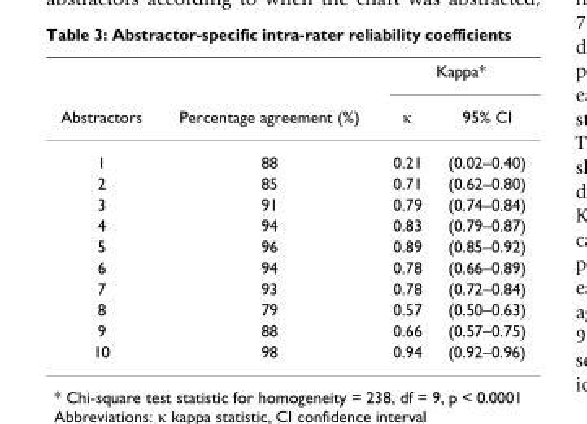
<table><thead><tr><td rowspan="2">Abstractors</td><td rowspan="2">Percentage agreement (%)</td><td colspan="2">Kappa*</td></tr><tr><td>κ</td><td>95% CI</td></tr></thead><tbody><tr><td>1</td><td>88</td><td>0.21</td><td>(0.02–0.40)</td></tr><tr><td>2</td><td>85</td><td>0.71</td><td>(0.62–0.80)</td></tr><tr><td>3</td><td>91</td><td>0.79</td><td>(0.74–0.84)</td></tr><tr><td>4</td><td>94</td><td>0.83</td><td>(0.79–0.87)</td></tr><tr><td>5</td><td>96</td><td>0.89</td><td>(0.85–0.92)</td></tr><tr><td>6</td><td>94</td><td>0.78</td><td>(0.66–0.89)</td></tr><tr><td>7</td><td>93</td><td>0.78</td><td>(0.72–0.84)</td></tr><tr><td>8</td><td>79</td><td>0.57</td><td>(0.50–0.63)</td></tr><tr><td>9</td><td>88</td><td>0.66</td><td>(0.57–0.75)</td></tr><tr><td>10</td><td>98</td><td>0.94</td><td>(0.92–0.96)</td></tr></tbody></table>